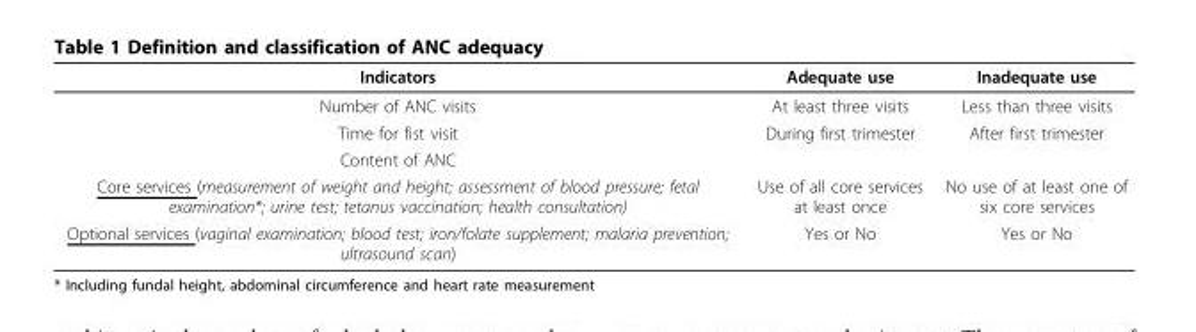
<table><thead><tr><td>Indicators</td><td>Adequate use</td><td>Inadequate use</td></tr></thead><tbody><tr><td>Number of ANC visits</td><td>At least three visits</td><td>Less than three visits</td></tr><tr><td>Time for fist visit</td><td>During first trimester</td><td>After first trimester</td></tr><tr><td colspan="3">Content of ANC</td></tr><tr><td>Core services (measurement of weight and height; assessment of blood pressure; fetal examination*; urine test; tetanus vaccination; health consultation)</td><td>Use of all core services at least once</td><td>No use of at least one of six core services</td></tr><tr><td>Optional services (vaginal examination; blood test; iron/folate supplement; malaria prevention; ultrasound scan)</td><td>Yes or No</td><td>Yes or No</td></tr></tbody></table>